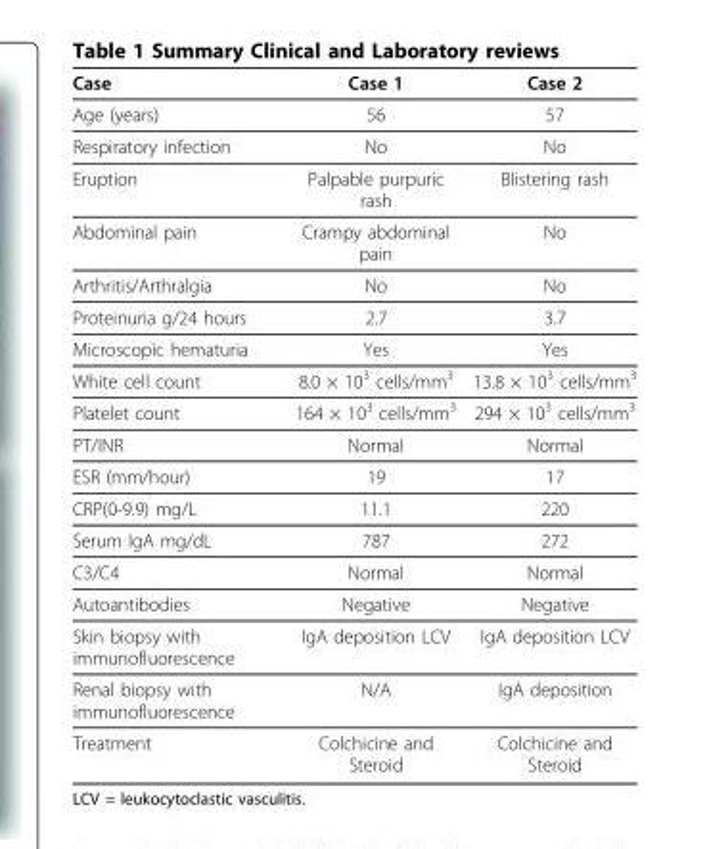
<table><thead><tr><td>Case</td><td>Case 1</td><td>Case 2</td></tr></thead><tbody><tr><td>Age (years)</td><td>56</td><td>57</td></tr><tr><td>Respiratory infection</td><td>No</td><td>No</td></tr><tr><td>Eruption</td><td>Palpable purpuric rash</td><td>Blistering rash</td></tr><tr><td>Abdominal pain</td><td>Crampy abdominal pain</td><td>No</td></tr><tr><td>Arthritis/Arthralgia</td><td>No</td><td>No</td></tr><tr><td>Proteinuria g/24 hours</td><td>2.7</td><td>3.7</td></tr><tr><td>Microscopic hematuria</td><td>Yes</td><td>Yes</td></tr><tr><td>White cell count</td><td>8.0 × 10<sup>3</sup> cells/mm<sup>3</sup></td><td>13.8 × 10<sup>3</sup> cells/mm<sup>3</sup></td></tr><tr><td>Platelet count</td><td>164 × 10<sup>3</sup> cells/mm<sup>3</sup></td><td>294 × 10<sup>3</sup> cells/mm<sup>3</sup></td></tr><tr><td>PT/INR</td><td>Normal</td><td>Normal</td></tr><tr><td>ESR (mm/hour)</td><td>19</td><td>17</td></tr><tr><td>CRP(0-9.9) mg/L</td><td>11.1</td><td>220</td></tr><tr><td>Serum IgA mg/dL</td><td>787</td><td>272</td></tr><tr><td>C3/C4</td><td>Normal</td><td>Normal</td></tr><tr><td>Autoantibodies</td><td>Negative</td><td>Negative</td></tr><tr><td>Skin biopsy with immunofluorescence</td><td>IgA deposition LCV</td><td>IgA deposition LCV</td></tr><tr><td>Renal biopsy with immunofluorescence</td><td>N/A</td><td>IgA deposition</td></tr><tr><td>Treatment</td><td>Colchicine and Steroid</td><td>Colchicine and Steroid</td></tr></tbody></table>